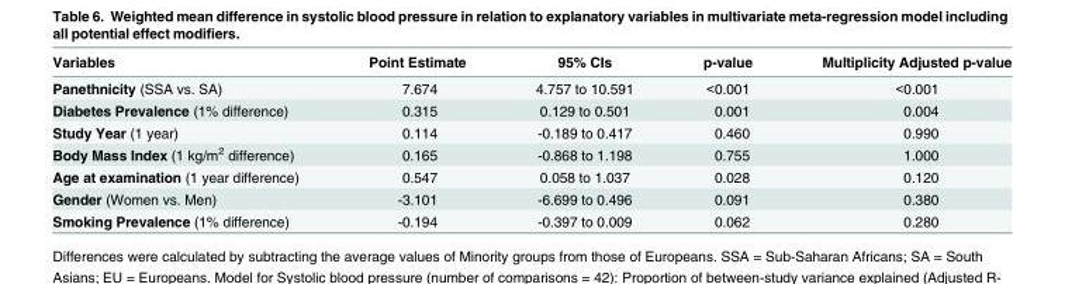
<table><thead><tr><td>Variables</td><td>Point Estimate</td><td>95% CIs</td><td>p-value</td><td>Multiplicity Adjusted p-value</td></tr></thead><tbody><tr><td>Panethnicity (SSA vs. SA)</td><td>7.674</td><td>4.757 to 10.591</td><td>&lt;0.001</td><td>&lt;0.001</td></tr><tr><td>Diabetes Prevalence (1% difference)</td><td>0.315</td><td>0.129 to 0.501</td><td>0.001</td><td>0.004</td></tr><tr><td>Study Year (1 year)</td><td>0.114</td><td>-0.189 to 0.417</td><td>0.460</td><td>0.990</td></tr><tr><td>Body Mass Index (1 kg/m<sup>2</sup> difference)</td><td>0.165</td><td>-0.868 to 1.198</td><td>0.755</td><td>1.000</td></tr><tr><td>Age at examination (1 year difference)</td><td>0.547</td><td>0.058 to 1.037</td><td>0.028</td><td>0.120</td></tr><tr><td>Gender (Women vs. Men)</td><td>-3.101</td><td>-6.699 to 0.496</td><td>0.091</td><td>0.380</td></tr><tr><td>Smoking Prevalence (1% difference)</td><td>-0.194</td><td>-0.397 to 0.009</td><td>0.062</td><td>0.280</td></tr></tbody></table>